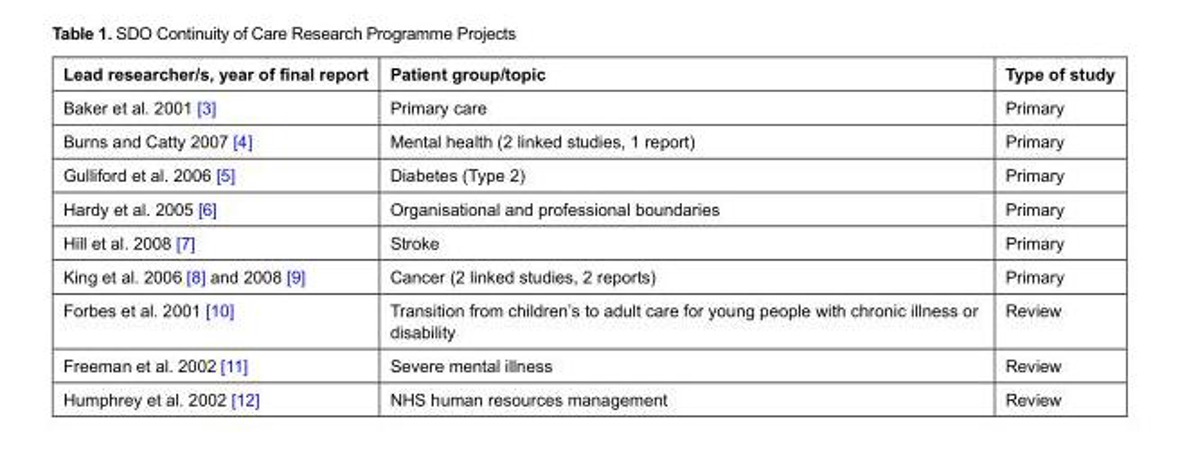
<table><thead><tr><td>Lead researcher/s, year of final report</td><td>Patient group/topic</td><td>Type of study</td></tr></thead><tbody><tr><td>Baker et al. 2001 [3]</td><td>Primary care</td><td>Primary</td></tr><tr><td>Burns and Catty 2007 [4]</td><td>Mental health (2 linked studies, 1 report)</td><td>Primary</td></tr><tr><td>Gulliford et al. 2006 [5]</td><td>Diabetes (Type 2)</td><td>Primary</td></tr><tr><td>Hardy et al. 2005 [6]</td><td>Organisational and professional boundaries</td><td>Primary</td></tr><tr><td>Hill et al. 2008 [7]</td><td>Stroke</td><td>Primary</td></tr><tr><td>King et al. 2006 [8] and 2008 [9]</td><td>Cancer (2 linked studies, 2 reports)</td><td>Primary</td></tr><tr><td>Forbes et al. 2001 [10]</td><td>Transition from children’s to adult care for young people with chronic illness or disability</td><td>Review</td></tr><tr><td>Freeman et al. 2002 [11]</td><td>Severe mental illness</td><td>Review</td></tr><tr><td>Humphrey et al. 2002 [12]</td><td>NHS human resources management</td><td>Review</td></tr></tbody></table>